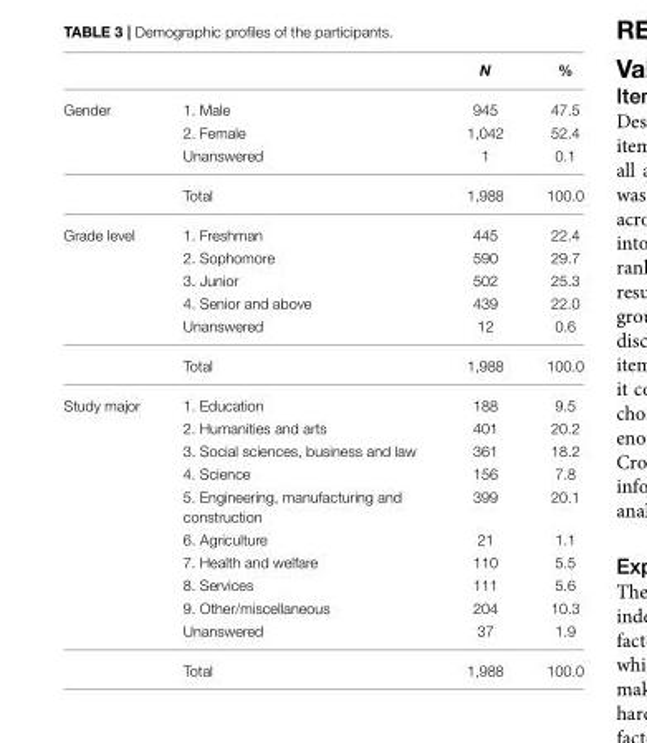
<table><thead><tr><td></td><td></td><td>N</td><td>%</td></tr></thead><tbody><tr><td rowspan="4">Gender</td><td>1. Male</td><td>945</td><td>47.5</td></tr><tr><td>2. Female</td><td>1,042</td><td>52.4</td></tr><tr><td>Unanswered</td><td>1</td><td>0.1</td></tr><tr><td>Total</td><td>1,988</td><td>100.0</td></tr><tr><td rowspan="6">Grade level</td><td>1. Freshman</td><td>445</td><td>22.4</td></tr><tr><td>2. Sophomore</td><td>590</td><td>29.7</td></tr><tr><td>3. Junior</td><td>502</td><td>25.3</td></tr><tr><td>4. Senior and above</td><td>439</td><td>22.0</td></tr><tr><td>Unanswered</td><td>12</td><td>0.6</td></tr><tr><td>Total</td><td>1,988</td><td>100.0</td></tr><tr><td rowspan="11">Study major</td><td>1. Education</td><td>188</td><td>9.5</td></tr><tr><td>2. Humanities and arts</td><td>401</td><td>20.2</td></tr><tr><td>3. Social sciences, business and law</td><td>361</td><td>18.2</td></tr><tr><td>4. Science</td><td>156</td><td>7.8</td></tr><tr><td>5. Engineering, manufacturing and construction</td><td>399</td><td>20.1</td></tr><tr><td>6. Agriculture</td><td>21</td><td>1.1</td></tr><tr><td>7. Health and welfare</td><td>110</td><td>5.5</td></tr><tr><td>8. Services</td><td>111</td><td>5.6</td></tr><tr><td>9. Other/miscellaneous</td><td>204</td><td>10.3</td></tr><tr><td>Unanswered</td><td>37</td><td>1.9</td></tr><tr><td>Total</td><td>1,988</td><td>100.0</td></tr></tbody></table>